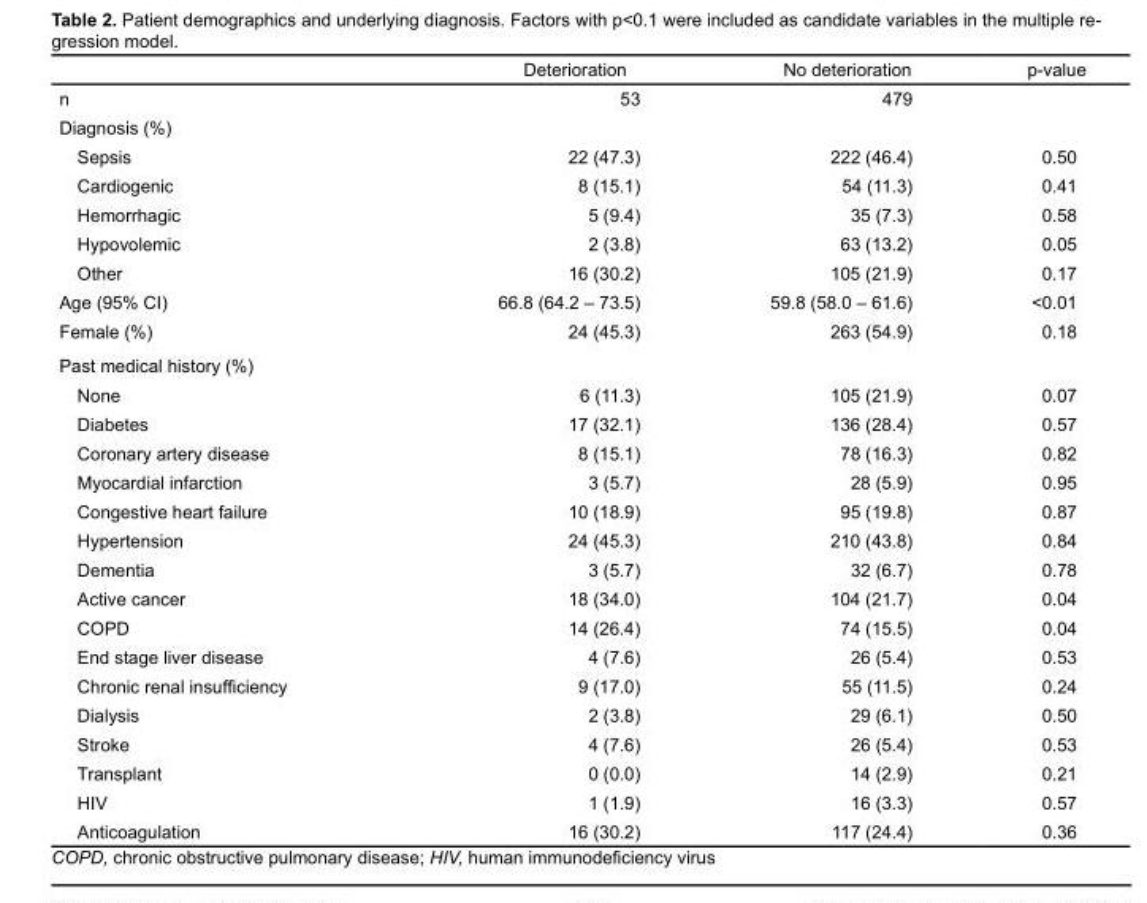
<table><thead><tr><td></td><td>Deterioration</td><td>No deterioration</td><td>p-value</td></tr></thead><tbody><tr><td>n</td><td>53</td><td>479</td><td></td></tr><tr><td colspan="4">Diagnosis (%)</td></tr><tr><td>Sepsis</td><td>22 (47.3)</td><td>222 (46.4)</td><td>0.50</td></tr><tr><td>Cardiogenic</td><td>8 (15.1)</td><td>54 (11.3)</td><td>0.41</td></tr><tr><td>Hemorrhagic</td><td>5 (9.4)</td><td>35 (7.3)</td><td>0.58</td></tr><tr><td>Hypovolemic</td><td>2 (3.8)</td><td>63 (13.2)</td><td>0.05</td></tr><tr><td>Other</td><td>16 (30.2)</td><td>105 (21.9)</td><td>0.17</td></tr><tr><td>Age (95% CI)</td><td>66.8 (64.2 – 73.5)</td><td>59.8 (58.0 – 61.6)</td><td>&lt;0.01</td></tr><tr><td>Female (%)</td><td>24 (45.3)</td><td>263 (54.9)</td><td>0.18</td></tr><tr><td colspan="4">Past medical history (%)</td></tr><tr><td>None</td><td>6 (11.3)</td><td>105 (21.9)</td><td>0.07</td></tr><tr><td>Diabetes</td><td>17 (32.1)</td><td>136 (28.4)</td><td>0.57</td></tr><tr><td>Coronary artery disease</td><td>8 (15.1)</td><td>78 (16.3)</td><td>0.82</td></tr><tr><td>Myocardial infarction</td><td>3 (5.7)</td><td>28 (5.9)</td><td>0.95</td></tr><tr><td>Congestive heart failure</td><td>10 (18.9)</td><td>95 (19.8)</td><td>0.87</td></tr><tr><td>Hypertension</td><td>24 (45.3)</td><td>210 (43.8)</td><td>0.84</td></tr><tr><td>Dementia</td><td>3 (5.7)</td><td>32 (6.7)</td><td>0.78</td></tr><tr><td>Active cancer</td><td>18 (34.0)</td><td>104 (21.7)</td><td>0.04</td></tr><tr><td>COPD</td><td>14 (26.4)</td><td>74 (15.5)</td><td>0.04</td></tr><tr><td>End stage liver disease</td><td>4 (7.6)</td><td>26 (5.4)</td><td>0.53</td></tr><tr><td>Chronic renal insufficiency</td><td>9 (17.0)</td><td>55 (11.5)</td><td>0.24</td></tr><tr><td>Dialysis</td><td>2 (3.8)</td><td>29 (6.1)</td><td>0.50</td></tr><tr><td>Stroke</td><td>4 (7.6)</td><td>26 (5.4)</td><td>0.53</td></tr><tr><td>Transplant</td><td>0 (0.0)</td><td>14 (2.9)</td><td>0.21</td></tr><tr><td>HIV</td><td>1 (1.9)</td><td>16 (3.3)</td><td>0.57</td></tr><tr><td>Anticoagulation</td><td>16 (30.2)</td><td>117 (24.4)</td><td>0.36</td></tr></tbody></table>